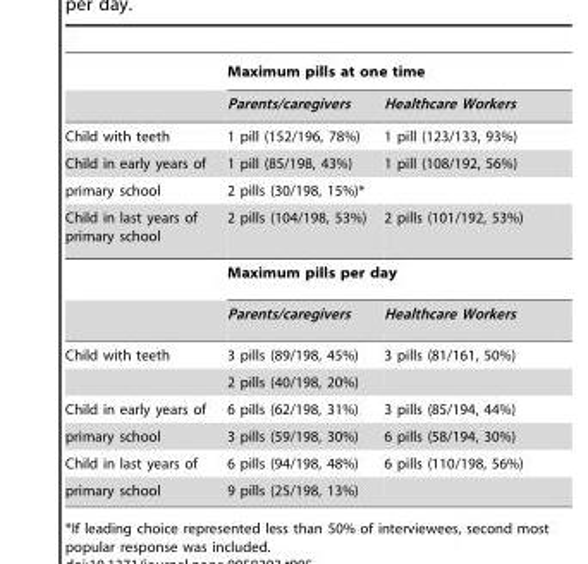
<table><thead><tr><td rowspan="2"></td><td colspan="2">Maximum pills at one time</td></tr><tr><td>Parents/caregivers</td><td>Healthcare Workers</td></tr></thead><tbody><tr><td>Child with teeth</td><td>1 pill (152/196, 78%)</td><td>1 pill (123/133, 93%)</td></tr><tr><td>Child in early years of</td><td>1 pill (85/198, 43%)</td><td>1 pill (108/192, 56%)</td></tr><tr><td>primary school</td><td>2 pills (30/198, 15%)*</td><td></td></tr><tr><td rowspan="3">Child in last years of primary school</td><td>2 pills (104/198, 53%)</td><td>2 pills (101/192, 53%)</td></tr><tr><td colspan="2">Maximum pills per day</td></tr><tr><td>Parents/caregivers</td><td>Healthcare Workers</td></tr><tr><td rowspan="2">Child with teeth</td><td>3 pills (89/198, 45%)</td><td>3 pills (81/161, 50%)</td></tr><tr><td>2 pills (40/198, 20%)</td><td></td></tr><tr><td>Child in early years of</td><td>6 pills (62/198, 31%)</td><td>3 pills (85/194, 44%)</td></tr><tr><td>primary school</td><td>3 pills (59/198, 30%)</td><td>6 pills (58/194, 30%)</td></tr><tr><td>Child in last years of</td><td>6 pills (94/198, 48%)</td><td>6 pills (110/198, 56%)</td></tr><tr><td>primary school</td><td>9 pills (25/198, 13%)</td><td></td></tr></tbody></table>